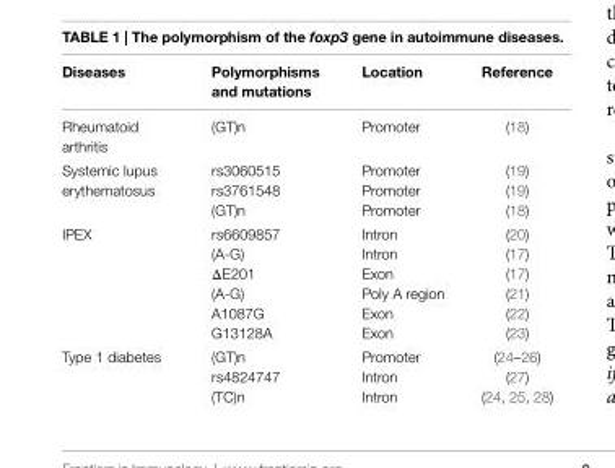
<table><thead><tr><td>Diseases</td><td>Polymorphisms and mutations</td><td>Location</td><td>Reference</td></tr></thead><tbody><tr><td>Rheumatoid arthritis</td><td>(GT)n</td><td>Promoter</td><td>(18)</td></tr><tr><td>Systemic lupus erythematosus</td><td>rs3060515 rs3761548 (GT)n</td><td>Promoter Promoter Promoter</td><td>(19) (19) (18)</td></tr><tr><td>IPEX</td><td>rs6609857 (A-G) ΔE201 (A-G) A1087G G13128A</td><td>Intron Intron Exon Poly A region Exon Exon</td><td>(20) (17) (17) (21) (22) (23)</td></tr><tr><td>Type 1 diabetes</td><td>(GT)n rs4824747 (TC)n</td><td>Promoter Intron Intron</td><td>(24–26) (27) (24, 25, 28)</td></tr></tbody></table>